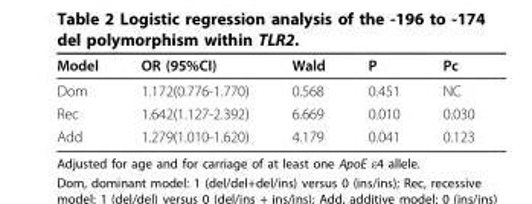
<table><thead><tr><td>Model</td><td>OR (95%CI)</td><td>Wald</td><td>P</td><td>Pc</td></tr></thead><tbody><tr><td>Dom</td><td>1.172(0.776-1.770)</td><td>0.568</td><td>0.451</td><td>NC</td></tr><tr><td>Rec</td><td>1.642(1.127-2.392)</td><td>6.669</td><td>0.010</td><td>0.030</td></tr><tr><td>Add</td><td>1.279(1.010-1.620)</td><td>4.179</td><td>0.041</td><td>0.123</td></tr></tbody></table>